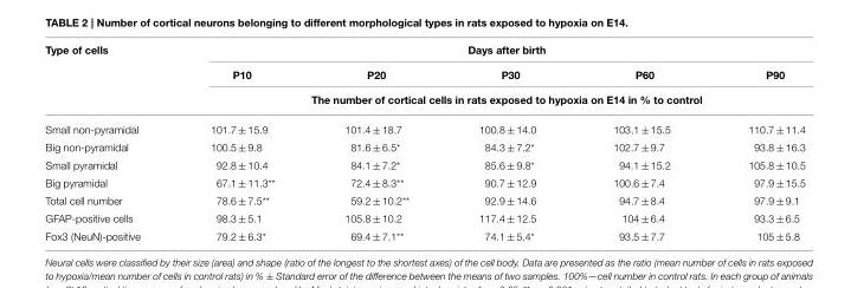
<table><thead><tr><td rowspan="3">Type of cells</td><td colspan="5">Days after birth</td></tr><tr><td>P10</td><td>P20</td><td>P30</td><td>P60</td><td>P90</td></tr><tr><td colspan="5">The number of cortical cells in rats exposed to hypoxia on E14 in % to control</td></tr></thead><tbody><tr><td>Small non-pyramidal</td><td>101.7 ± 15.9</td><td>101.4 ± 18.7</td><td>100.8 ± 14.0</td><td>103.1 ± 15.5</td><td>110.7 ± 11.4</td></tr><tr><td>Big non-pyramidal</td><td>100.5 ± 9.8</td><td>81.6 ± 6.5*</td><td>84.3 ± 7.2*</td><td>102.7 ± 9.7</td><td>93.8 ± 16.3</td></tr><tr><td>Small pyramidal</td><td>92.8 ± 10.4</td><td>84.1 ± 7.2*</td><td>85.6 ± 9.8*</td><td>94.1 ± 15.2</td><td>105.8 ± 10.5</td></tr><tr><td>Big pyramidal</td><td>67.1 ± 11.3**</td><td>72.4 ± 8.3**</td><td>90.7 ± 12.9</td><td>100.6 ± 7.4</td><td>97.9 ± 15.5</td></tr><tr><td>Total cell number</td><td>78.6 ± 7.5**</td><td>59.2 ± 10.2**</td><td>92.9 ± 14.6</td><td>94.7 ± 8.4</td><td>97.9 ± 9.1</td></tr><tr><td>GFAP-positive cells</td><td>98.3 ± 5.1</td><td>105.8 ± 10.2</td><td>117.4 ± 12.5</td><td>104 ± 6.4</td><td>93.3 ± 6.5</td></tr><tr><td>Fox3 (NeuN)-positive</td><td>79.2 ± 6.3*</td><td>69.4 ± 7.1**</td><td>74.1 ± 5.4*</td><td>93.5 ± 7.7</td><td>105 ± 5.8</td></tr></tbody></table>